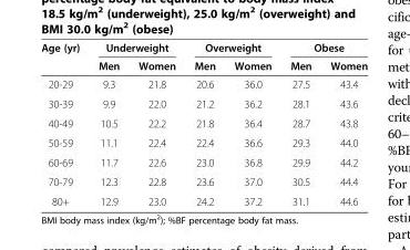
<table><thead><tr><td rowspan="2">Age (yr)</td><td colspan="2">Underweight</td><td colspan="2">Overweight</td><td colspan="2">Obese</td></tr><tr><td>Men</td><td>Women</td><td>Men</td><td>Women</td><td>Men</td><td>Women</td></tr></thead><tbody><tr><td>20-29</td><td>9.3</td><td>21.8</td><td>20.6</td><td>36.0</td><td>27.5</td><td>43.4</td></tr><tr><td>30-39</td><td>9.9</td><td>22.0</td><td>21.2</td><td>36.2</td><td>28.1</td><td>43.6</td></tr><tr><td>40-49</td><td>10.5</td><td>22.2</td><td>21.8</td><td>36.4</td><td>28.7</td><td>43.8</td></tr><tr><td>50-59</td><td>11.1</td><td>22.4</td><td>22.4</td><td>36.6</td><td>29.3</td><td>44.0</td></tr><tr><td>60-69</td><td>11.7</td><td>22.6</td><td>23.0</td><td>36.8</td><td>29.9</td><td>44.2</td></tr><tr><td>70-79</td><td>12.3</td><td>22.8</td><td>23.6</td><td>37.0</td><td>30.5</td><td>44.4</td></tr><tr><td>80+</td><td>12.9</td><td>23.0</td><td>24.2</td><td>37.2</td><td>31.1</td><td>44.6</td></tr></tbody></table>